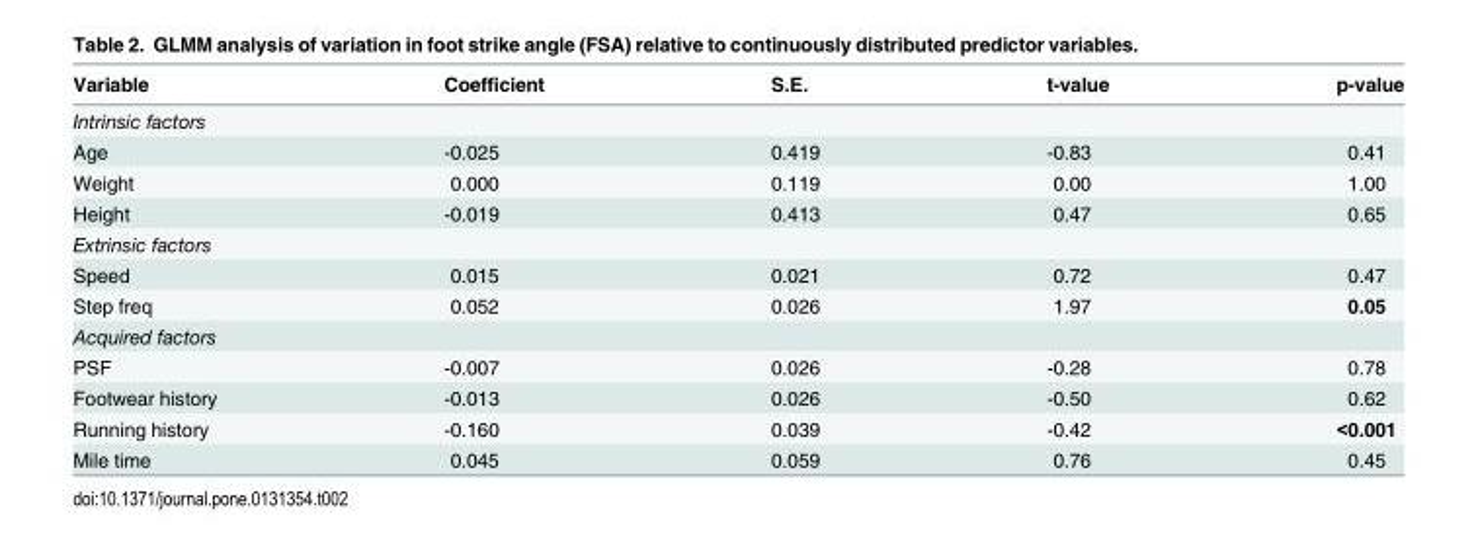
<table><thead><tr><td>Variable</td><td>Coefficient</td><td>S.E.</td><td>t-value</td><td>p-value</td></tr></thead><tbody><tr><td colspan="5">Intrinsic factors</td></tr><tr><td>Age</td><td>-0.025</td><td>0.419</td><td>-0.83</td><td>0.41</td></tr><tr><td>Weight</td><td>0.000</td><td>0.119</td><td>0.00</td><td>1.00</td></tr><tr><td>Height</td><td>-0.019</td><td>0.413</td><td>0.47</td><td>0.65</td></tr><tr><td colspan="5">Extrinsic factors</td></tr><tr><td>Speed</td><td>0.015</td><td>0.021</td><td>0.72</td><td>0.47</td></tr><tr><td>Step freq</td><td>0.052</td><td>0.026</td><td>1.97</td><td>0.05</td></tr><tr><td colspan="5">Acquired factors</td></tr><tr><td>PSF</td><td>-0.007</td><td>0.026</td><td>-0.28</td><td>0.78</td></tr><tr><td>Footwear history</td><td>-0.013</td><td>0.026</td><td>-0.50</td><td>0.62</td></tr><tr><td>Running history</td><td>-0.160</td><td>0.039</td><td>-0.42</td><td>&lt;0.001</td></tr><tr><td>Mile time</td><td>0.045</td><td>0.059</td><td>0.76</td><td>0.45</td></tr></tbody></table>